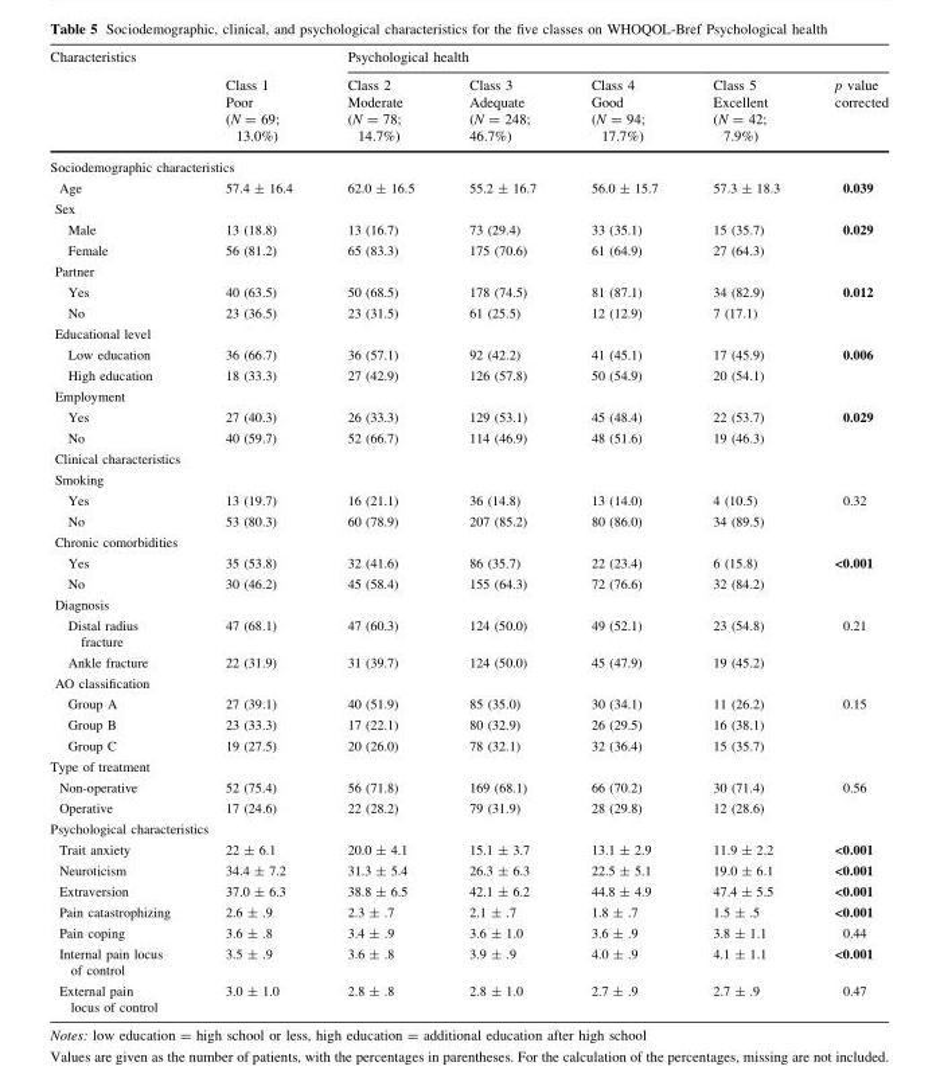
<table><thead><tr><td rowspan="2">Characteristics</td><td rowspan="2">Class 1 Poor (N = 69; 13.0%)</td><td colspan="5">Psychological health</td></tr><tr><td>Class 2 Moderate (N = 78; 14.7%)</td><td>Class 3 Adequate (N = 248; 46.7%)</td><td>Class 4 Good (N = 94; 17.7%)</td><td>Class 5 Excellent (N = 42; 7.9%)</td><td>p value corrected</td></tr></thead><tbody><tr><td colspan="7">Sociodemographic characteristics</td></tr><tr><td>Age</td><td>57.4 ± 16.4</td><td>62.0 ± 16.5</td><td>55.2 ± 16.7</td><td>56.0 ± 15.7</td><td>57.3 ± 18.3</td><td>0.039</td></tr><tr><td colspan="7">Sex</td></tr><tr><td>Male</td><td>13 (18.8)</td><td>13 (16.7)</td><td>73 (29.4)</td><td>33 (35.1)</td><td>15 (35.7)</td><td>0.029</td></tr><tr><td>Female</td><td>56 (81.2)</td><td>65 (83.3)</td><td>175 (70.6)</td><td>61 (64.9)</td><td>27 (64.3)</td><td></td></tr><tr><td colspan="7">Partner</td></tr><tr><td>Yes</td><td>40 (63.5)</td><td>50 (68.5)</td><td>178 (74.5)</td><td>81 (87.1)</td><td>34 (82.9)</td><td>0.012</td></tr><tr><td>No</td><td>23 (36.5)</td><td>23 (31.5)</td><td>61 (25.5)</td><td>12 (12.9)</td><td>7 (17.1)</td><td></td></tr><tr><td colspan="7">Educational level</td></tr><tr><td>Low education</td><td>36 (66.7)</td><td>36 (57.1)</td><td>92 (42.2)</td><td>41 (45.1)</td><td>17 (45.9)</td><td>0.006</td></tr><tr><td>High education</td><td>18 (33.3)</td><td>27 (42.9)</td><td>126 (57.8)</td><td>50 (54.9)</td><td>20 (54.1)</td><td></td></tr><tr><td colspan="7">Employment</td></tr><tr><td>Yes</td><td>27 (40.3)</td><td>26 (33.3)</td><td>129 (53.1)</td><td>45 (48.4)</td><td>22 (53.7)</td><td>0.029</td></tr><tr><td>No</td><td>40 (59.7)</td><td>52 (66.7)</td><td>114 (46.9)</td><td>48 (51.6)</td><td>19 (46.3)</td><td></td></tr><tr><td colspan="7">Clinical characteristics</td></tr><tr><td colspan="7">Smoking</td></tr><tr><td>Yes</td><td>13 (19.7)</td><td>16 (21.1)</td><td>36 (14.8)</td><td>13 (14.0)</td><td>4 (10.5)</td><td>0.32</td></tr><tr><td>No</td><td>53 (80.3)</td><td>60 (78.9)</td><td>207 (85.2)</td><td>80 (86.0)</td><td>34 (89.5)</td><td></td></tr><tr><td colspan="7">Chronic comorbidities</td></tr><tr><td>Yes</td><td>35 (53.8)</td><td>32 (41.6)</td><td>86 (35.7)</td><td>22 (23.4)</td><td>6 (15.8)</td><td>&lt;0.001</td></tr><tr><td>No</td><td>30 (46.2)</td><td>45 (58.4)</td><td>155 (64.3)</td><td>72 (76.6)</td><td>32 (84.2)</td><td></td></tr><tr><td colspan="7">Diagnosis</td></tr><tr><td>Distal radius fracture</td><td>47 (68.1)</td><td>47 (60.3)</td><td>124 (50.0)</td><td>49 (52.1)</td><td>23 (54.8)</td><td>0.21</td></tr><tr><td>Ankle fracture</td><td>22 (31.9)</td><td>31 (39.7)</td><td>124 (50.0)</td><td>45 (47.9)</td><td>19 (45.2)</td><td></td></tr><tr><td colspan="7">AO classification</td></tr><tr><td>Group A</td><td>27 (39.1)</td><td>40 (51.9)</td><td>85 (35.0)</td><td>30 (34.1)</td><td>11 (26.2)</td><td>0.15</td></tr><tr><td>Group B</td><td>23 (33.3)</td><td>17 (22.1)</td><td>80 (32.9)</td><td>26 (29.5)</td><td>16 (38.1)</td><td></td></tr><tr><td>Group C</td><td>19 (27.5)</td><td>20 (26.0)</td><td>78 (32.1)</td><td>32 (36.4)</td><td>15 (35.7)</td><td></td></tr><tr><td colspan="7">Type of treatment</td></tr><tr><td>Non-operative</td><td>52 (75.4)</td><td>56 (71.8)</td><td>169 (68.1)</td><td>66 (70.2)</td><td>30 (71.4)</td><td>0.56</td></tr><tr><td>Operative</td><td>17 (24.6)</td><td>22 (28.2)</td><td>79 (31.9)</td><td>28 (29.8)</td><td>12 (28.6)</td><td></td></tr><tr><td colspan="7">Psychological characteristics</td></tr><tr><td>Trait anxiety</td><td>22 ± 6.1</td><td>20.0 ± 4.1</td><td>15.1 ± 3.7</td><td>13.1 ± 2.9</td><td>11.9 ± 2.2</td><td>&lt;0.001</td></tr><tr><td>Neuroticism</td><td>34.4 ± 7.2</td><td>31.3 ± 5.4</td><td>26.3 ± 6.3</td><td>22.5 ± 5.1</td><td>19.0 ± 6.1</td><td>&lt;0.001</td></tr><tr><td>Extraversion</td><td>37.0 ± 6.3</td><td>38.8 ± 6.5</td><td>42.1 ± 6.2</td><td>44.8 ± 4.9</td><td>47.4 ± 5.5</td><td>&lt;0.001</td></tr><tr><td>Pain catastrophizing</td><td>2.6 ± .9</td><td>2.3 ± .7</td><td>2.1 ± .7</td><td>1.8 ± .7</td><td>1.5 ± .5</td><td>&lt;0.001</td></tr><tr><td>Pain coping</td><td>3.6 ± .8</td><td>3.4 ± .9</td><td>3.6 ± 1.0</td><td>3.6 ± .9</td><td>3.8 ± 1.1</td><td>0.44</td></tr><tr><td>Internal pain locus of control</td><td>3.5 ± .9</td><td>3.6 ± .8</td><td>3.9 ± .9</td><td>4.0 ± .9</td><td>4.1 ± 1.1</td><td>&lt;0.001</td></tr><tr><td>External pain locus of control</td><td>3.0 ± 1.0</td><td>2.8 ± .8</td><td>2.8 ± 1.0</td><td>2.7 ± .9</td><td>2.7 ± .9</td><td>0.47</td></tr></tbody></table>